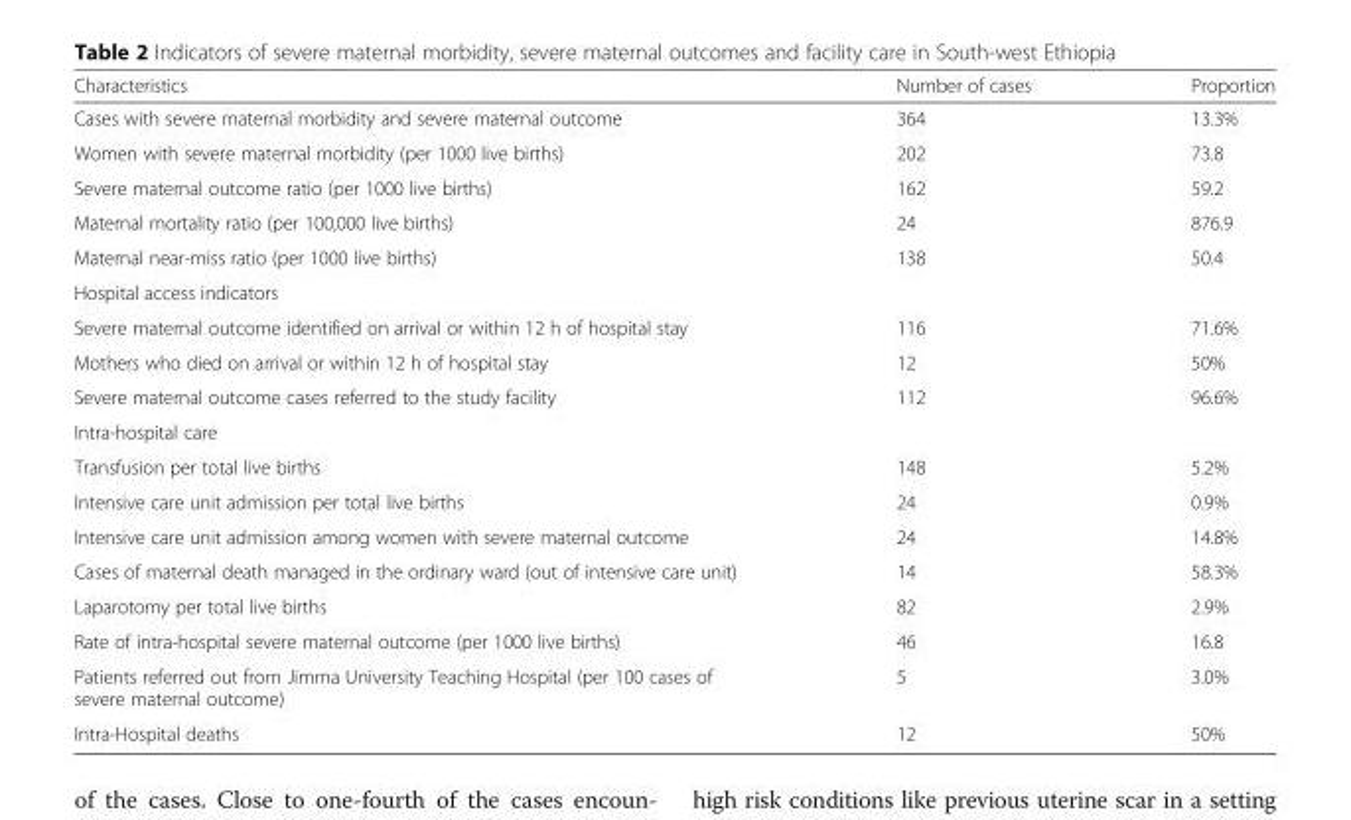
<table><thead><tr><td>Characteristics</td><td>Number of cases</td><td>Proportion</td></tr></thead><tbody><tr><td>Cases with severe maternal morbidity and severe maternal outcome</td><td>364</td><td>13.3%</td></tr><tr><td>Women with severe maternal morbidity (per 1000 live births)</td><td>202</td><td>73.8</td></tr><tr><td>Severe maternal outcome ratio (per 1000 live births)</td><td>162</td><td>59.2</td></tr><tr><td>Maternal mortality ratio (per 100,000 live births)</td><td>24</td><td>876.9</td></tr><tr><td>Maternal near-miss ratio (per 1000 live births)</td><td>138</td><td>50.4</td></tr><tr><td colspan="3">Hospital access indicators</td></tr><tr><td>Severe maternal outcome identified on arrival or within 12 h of hospital stay</td><td>116</td><td>71.6%</td></tr><tr><td>Mothers who died on arrival or within 12 h of hospital stay</td><td>12</td><td>50%</td></tr><tr><td>Severe maternal outcome cases referred to the study facility</td><td>112</td><td>96.6%</td></tr><tr><td colspan="3">Intra-hospital care</td></tr><tr><td>Transfusion per total live births</td><td>148</td><td>5.2%</td></tr><tr><td>Intensive care unit admission per total live births</td><td>24</td><td>0.9%</td></tr><tr><td>Intensive care unit admission among women with severe maternal outcome</td><td>24</td><td>14.8%</td></tr><tr><td>Cases of maternal death managed in the ordinary ward (out of intensive care unit)</td><td>14</td><td>58.3%</td></tr><tr><td>Laparotomy per total live births</td><td>82</td><td>2.9%</td></tr><tr><td>Rate of intra-hospital severe maternal outcome (per 1000 live births)</td><td>46</td><td>16.8</td></tr><tr><td>Patients referred out from Jimma University Teaching Hospital (per 100 cases of severe maternal outcome)</td><td>5</td><td>3.0%</td></tr><tr><td>Intra-Hospital deaths</td><td>12</td><td>50%</td></tr></tbody></table>